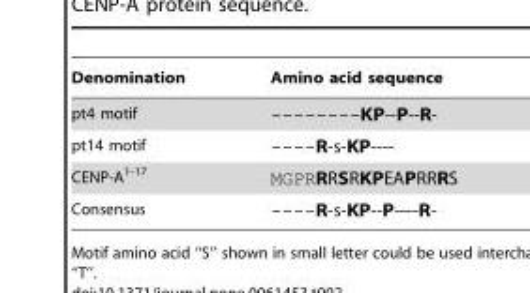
<table><thead><tr><td>Denomination</td><td>Amino acid sequence</td></tr></thead><tbody><tr><td>pt4 motif</td><td>--------KP--P--R-</td></tr><tr><td>pt14 motif</td><td>----R-s-KP----</td></tr><tr><td>CENP-A<sup>1-17</sup></td><td>MGPRRRSRKPEAPRRRS</td></tr><tr><td>Consensus</td><td>----R-s-KP--P—-R-</td></tr></tbody></table>